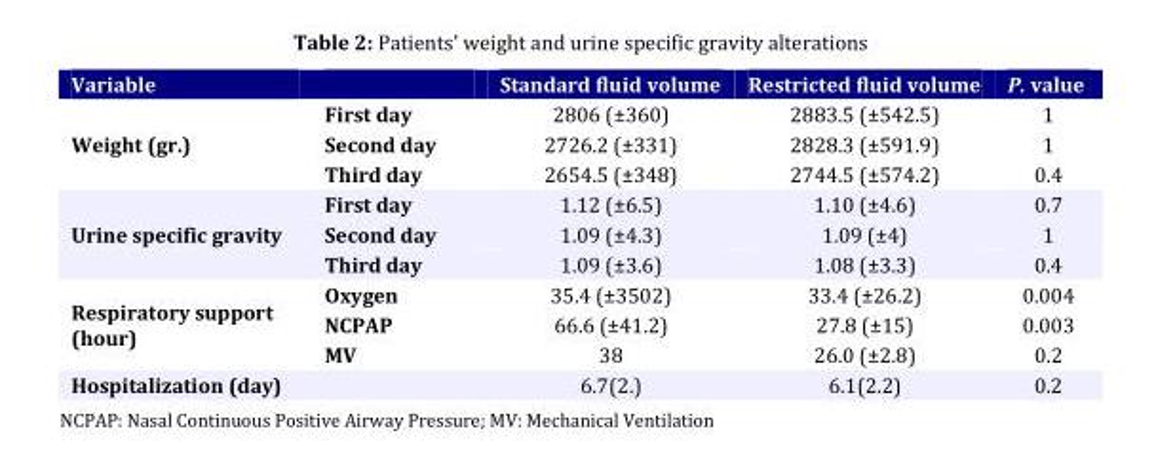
<table><thead><tr><td>Variable</td><td></td><td>Standard fluid volume</td><td>Restricted fluid volume</td><td>P. value</td></tr></thead><tbody><tr><td rowspan="3">Weight (gr.)</td><td>First day</td><td>2806 (±360)</td><td>2883.5 (±542.5)</td><td>1</td></tr><tr><td>Second day</td><td>2726.2 (±331)</td><td>2828.3 (±591.9)</td><td>1</td></tr><tr><td>Third day</td><td>2654.5 (±348)</td><td>2744.5 (±574.2)</td><td>0.4</td></tr><tr><td rowspan="3">Urine specific gravity</td><td>First day</td><td>1.12 (±6.5)</td><td>1.10 (±4.6)</td><td>0.7</td></tr><tr><td>Second day</td><td>1.09 (±4.3)</td><td>1.09 (±4)</td><td>1</td></tr><tr><td>Third day</td><td>1.09 (±3.6)</td><td>1.08 (±3.3)</td><td>0.4</td></tr><tr><td rowspan="3">Respiratory support (hour)</td><td>Oxygen</td><td>35.4 (±3502)</td><td>33.4 (±26.2)</td><td>0.004</td></tr><tr><td>NCPAP</td><td>66.6 (±41.2)</td><td>27.8 (±15)</td><td>0.003</td></tr><tr><td>MV</td><td>38</td><td>26.0 (±2.8)</td><td>0.2</td></tr><tr><td>Hospitalization (day)</td><td></td><td>6.7(2.)</td><td>6.1(2.2)</td><td>0.2</td></tr></tbody></table>